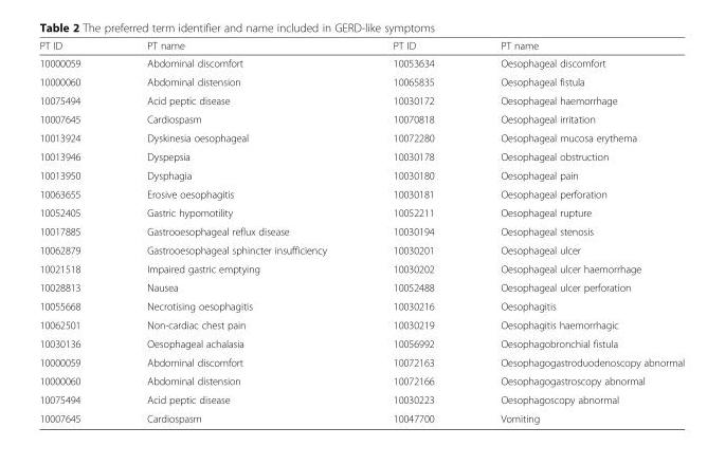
<table><thead><tr><td>PT ID</td><td>PT name</td><td>PT ID</td><td>PT name</td></tr></thead><tbody><tr><td>10000059</td><td>Abdominal discomfort</td><td>10053634</td><td>Oesophageal discomfort</td></tr><tr><td>10000060</td><td>Abdominal distension</td><td>10065835</td><td>Oesophageal fistula</td></tr><tr><td>10075494</td><td>Acid peptic disease</td><td>10030172</td><td>Oesophageal haemorrhage</td></tr><tr><td>10007645</td><td>Cardiospasm</td><td>10070818</td><td>Oesophageal irritation</td></tr><tr><td>10013924</td><td>Dyskinesia oesophageal</td><td>10072280</td><td>Oesophageal mucosa erythema</td></tr><tr><td>10013946</td><td>Dyspepsia</td><td>10030178</td><td>Oesophageal obstruction</td></tr><tr><td>10013950</td><td>Dysphagia</td><td>10030180</td><td>Oesophageal pain</td></tr><tr><td>10063655</td><td>Erosive oesophagitis</td><td>10030181</td><td>Oesophageal perforation</td></tr><tr><td>10052405</td><td>Gastric hypomotility</td><td>10052211</td><td>Oesophageal rupture</td></tr><tr><td>10017885</td><td>Gastrooesophageal reflux disease</td><td>10030194</td><td>Oesophageal stenosis</td></tr><tr><td>10062879</td><td>Gastrooesophageal sphincter insufficiency</td><td>10030201</td><td>Oesophageal ulcer</td></tr><tr><td>10021518</td><td>Impaired gastric emptying</td><td>10030202</td><td>Oesophageal ulcer haemorrhage</td></tr><tr><td>10028813</td><td>Nausea</td><td>10052488</td><td>Oesophageal ulcer perforation</td></tr><tr><td>10055668</td><td>Necrotising oesophagitis</td><td>10030216</td><td>Oesophagitis</td></tr><tr><td>10062501</td><td>Non-cardiac chest pain</td><td>10030219</td><td>Oesophagitis haemorrhagic</td></tr><tr><td>10030136</td><td>Oesophageal achalasia</td><td>10056992</td><td>Oesophagobronchial fistula</td></tr><tr><td>10000059</td><td>Abdominal discomfort</td><td>10072163</td><td>Oesophagogastroduodenoscopy abnormal</td></tr><tr><td>10000060</td><td>Abdominal distension</td><td>10072166</td><td>Oesophagogastroscopy abnormal</td></tr><tr><td>10075494</td><td>Acid peptic disease</td><td>10030223</td><td>Oesophagoscopy abnormal</td></tr><tr><td>10007645</td><td>Cardiospasm</td><td>10047700</td><td>Vomiting</td></tr></tbody></table>